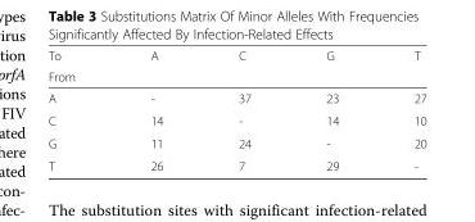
<table><thead><tr><td rowspan="2">To From</td><td rowspan="2">A</td><td rowspan="2">C</td><td rowspan="2">G</td><td rowspan="2">T</td></tr><tr></tr></thead><tbody><tr><td>A</td><td>-</td><td>37</td><td>23</td><td>27</td></tr><tr><td>C</td><td>14</td><td>-</td><td>14</td><td>10</td></tr><tr><td>G</td><td>11</td><td>24</td><td>-</td><td>20</td></tr><tr><td>T</td><td>26</td><td>7</td><td>29</td><td>-</td></tr></tbody></table>